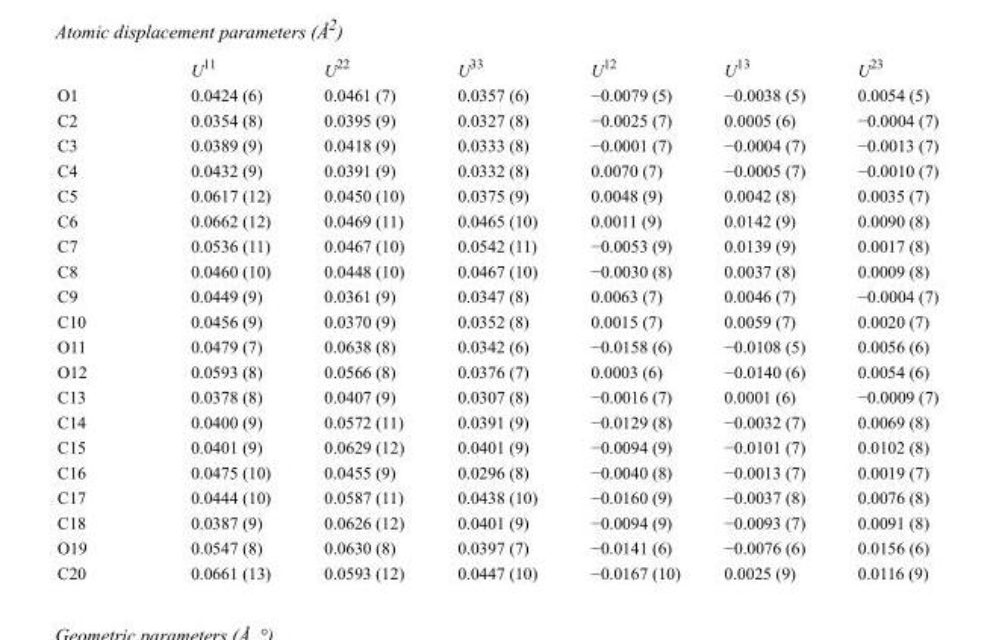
<table><thead><tr><td></td><td>U<sup>11</sup></td><td>U<sup>22</sup></td><td>U<sup>33</sup></td><td>U<sup>12</sup></td><td>U<sup>13</sup></td><td>U<sup>23</sup></td></tr></thead><tbody><tr><td>O1</td><td>0.0424 (6)</td><td>0.0461 (7)</td><td>0.0357 (6)</td><td>−0.0079 (5)</td><td>−0.0038 (5)</td><td>0.0054 (5)</td></tr><tr><td>C2</td><td>0.0354 (8)</td><td>0.0395 (9)</td><td>0.0327 (8)</td><td>−0.0025 (7)</td><td>0.0005 (6)</td><td>−0.0004 (7)</td></tr><tr><td>C3</td><td>0.0389 (9)</td><td>0.0418 (9)</td><td>0.0333 (8)</td><td>−0.0001 (7)</td><td>−0.0004 (7)</td><td>−0.0013 (7)</td></tr><tr><td>C4</td><td>0.0432 (9)</td><td>0.0391 (9)</td><td>0.0332 (8)</td><td>0.0070 (7)</td><td>−0.0005 (7)</td><td>−0.0010 (7)</td></tr><tr><td>C5</td><td>0.0617 (12)</td><td>0.0450 (10)</td><td>0.0375 (9)</td><td>0.0048 (9)</td><td>0.0042 (8)</td><td>0.0035 (7)</td></tr><tr><td>C6</td><td>0.0662 (12)</td><td>0.0469 (11)</td><td>0.0465 (10)</td><td>0.0011 (9)</td><td>0.0142 (9)</td><td>0.0090 (8)</td></tr><tr><td>C7</td><td>0.0536 (11)</td><td>0.0467 (10)</td><td>0.0542 (11)</td><td>−0.0053 (9)</td><td>0.0139 (9)</td><td>0.0017 (8)</td></tr><tr><td>C8</td><td>0.0460 (10)</td><td>0.0448 (10)</td><td>0.0467 (10)</td><td>−0.0030 (8)</td><td>0.0037 (8)</td><td>0.0009 (8)</td></tr><tr><td>C9</td><td>0.0449 (9)</td><td>0.0361 (9)</td><td>0.0347 (8)</td><td>0.0063 (7)</td><td>0.0046 (7)</td><td>−0.0004 (7)</td></tr><tr><td>C10</td><td>0.0456 (9)</td><td>0.0370 (9)</td><td>0.0352 (8)</td><td>0.0015 (7)</td><td>0.0059 (7)</td><td>0.0020 (7)</td></tr><tr><td>O11</td><td>0.0479 (7)</td><td>0.0638 (8)</td><td>0.0342 (6)</td><td>−0.0158 (6)</td><td>−0.0108 (5)</td><td>0.0056 (6)</td></tr><tr><td>O12</td><td>0.0593 (8)</td><td>0.0566 (8)</td><td>0.0376 (7)</td><td>0.0003 (6)</td><td>−0.0140 (6)</td><td>0.0054 (6)</td></tr><tr><td>C13</td><td>0.0378 (8)</td><td>0.0407 (9)</td><td>0.0307 (8)</td><td>−0.0016 (7)</td><td>0.0001 (6)</td><td>−0.0009 (7)</td></tr><tr><td>C14</td><td>0.0400 (9)</td><td>0.0572 (11)</td><td>0.0391 (9)</td><td>−0.0129 (8)</td><td>−0.0032 (7)</td><td>0.0069 (8)</td></tr><tr><td>C15</td><td>0.0401 (9)</td><td>0.0629 (12)</td><td>0.0401 (9)</td><td>−0.0094 (9)</td><td>−0.0101 (7)</td><td>0.0102 (8)</td></tr><tr><td>C16</td><td>0.0475 (10)</td><td>0.0455 (9)</td><td>0.0296 (8)</td><td>−0.0040 (8)</td><td>−0.0013 (7)</td><td>0.0019 (7)</td></tr><tr><td>C17</td><td>0.0444 (10)</td><td>0.0587 (11)</td><td>0.0438 (10)</td><td>−0.0160 (9)</td><td>−0.0037 (8)</td><td>0.0076 (8)</td></tr><tr><td>C18</td><td>0.0387 (9)</td><td>0.0626 (12)</td><td>0.0401 (9)</td><td>−0.0094 (9)</td><td>−0.0093 (7)</td><td>0.0091 (8)</td></tr><tr><td>O19</td><td>0.0547 (8)</td><td>0.0630 (8)</td><td>0.0397 (7)</td><td>−0.0141 (6)</td><td>−0.0076 (6)</td><td>0.0156 (6)</td></tr><tr><td>C20</td><td>0.0661 (13)</td><td>0.0593 (12)</td><td>0.0447 (10)</td><td>−0.0167 (10)</td><td>0.0025 (9)</td><td>0.0116 (9)</td></tr></tbody></table>